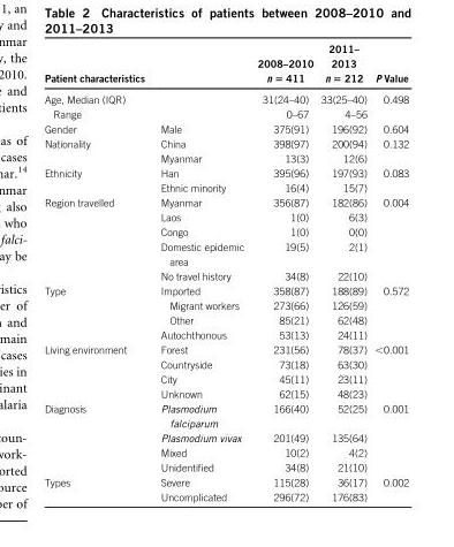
<table><thead><tr><td>Patient characteristics</td><td></td><td>2008–2010 n = 411</td><td>2011– 2013 n = 212</td><td>P Value</td></tr></thead><tbody><tr><td>Age, Median (IQR)</td><td></td><td>31(24–40)</td><td>33(25–40)</td><td>0.498</td></tr><tr><td>Range</td><td></td><td>0–67</td><td>4–56</td><td></td></tr><tr><td>Gender</td><td>Male</td><td>375(91)</td><td>196(92)</td><td>0.604</td></tr><tr><td rowspan="2">Nationality</td><td>China</td><td>398(97)</td><td>200(94)</td><td>0.132</td></tr><tr><td>Myanmar</td><td>13(3)</td><td>12(6)</td><td></td></tr><tr><td rowspan="2">Ethnicity</td><td>Han</td><td>395(96)</td><td>197(93)</td><td>0.083</td></tr><tr><td>Ethnic minority</td><td>16(4)</td><td>15(7)</td><td></td></tr><tr><td rowspan="5">Region travelled</td><td>Myanmar</td><td>356(87)</td><td>182(86)</td><td>0.004</td></tr><tr><td>Laos</td><td>1(0)</td><td>6(3)</td><td></td></tr><tr><td>Congo</td><td>1(0)</td><td>0(0)</td><td></td></tr><tr><td>Domestic epidemic area</td><td>19(5)</td><td>2(1)</td><td></td></tr><tr><td>No travel history</td><td>34(8)</td><td>22(10)</td><td></td></tr><tr><td rowspan="4">Type</td><td>Imported</td><td>358(87)</td><td>188(89)</td><td>0.572</td></tr><tr><td>Migrant workers</td><td>273(66)</td><td>126(59)</td><td></td></tr><tr><td>Other</td><td>85(21)</td><td>62(48)</td><td></td></tr><tr><td>Autochthonous</td><td>53(13)</td><td>24(11)</td><td></td></tr><tr><td rowspan="4">Living environment</td><td>Forest</td><td>231(56)</td><td>78(37)</td><td>&lt;0.001</td></tr><tr><td>Countryside</td><td>73(18)</td><td>63(30)</td><td></td></tr><tr><td>City</td><td>45(11)</td><td>23(11)</td><td></td></tr><tr><td>Unknown</td><td>62(15)</td><td>48(23)</td><td></td></tr><tr><td rowspan="4">Diagnosis</td><td>Plasmodium falciparum</td><td>166(40)</td><td>52(25)</td><td>0.001</td></tr><tr><td>Plasmodium vivax</td><td>201(49)</td><td>135(64)</td><td></td></tr><tr><td>Mixed</td><td>10(2)</td><td>4(2)</td><td></td></tr><tr><td>Unidentified</td><td>34(8)</td><td>21(10)</td><td></td></tr><tr><td rowspan="2">Types</td><td>Severe</td><td>115(28)</td><td>36(17)</td><td>0.002</td></tr><tr><td>Uncomplicated</td><td>296(72)</td><td>176(83)</td><td></td></tr></tbody></table>